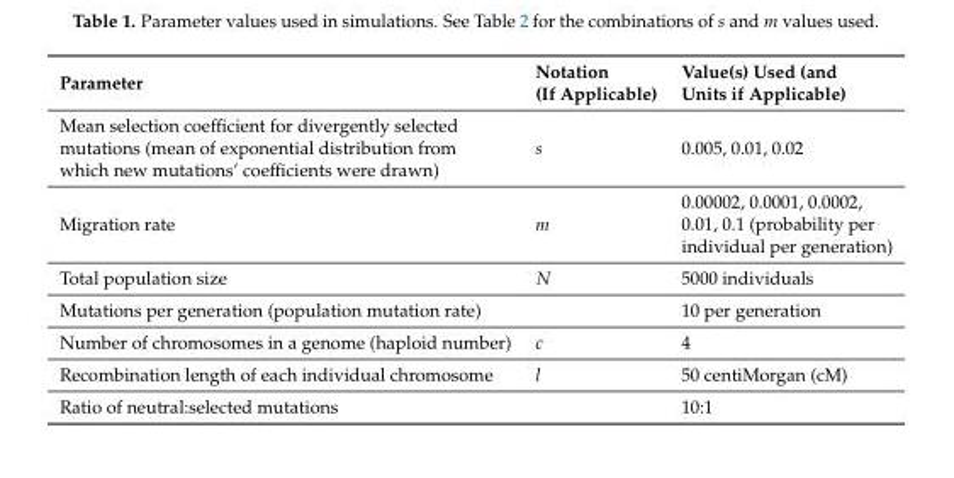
<table><thead><tr><td>Parameter</td><td>Notation (If Applicable)</td><td>Value(s) Used (and Units if Applicable)</td></tr></thead><tbody><tr><td>Mean selection coefficient for divergently selected mutations (mean of exponential distribution from which new mutations’ coefficients were drawn)</td><td>s</td><td>0.005, 0.01, 0.02</td></tr><tr><td>Migration rate</td><td>m</td><td>0.00002, 0.0001, 0.0002, 0.01, 0.1 (probability per individual per generation)</td></tr><tr><td>Total population size</td><td>N</td><td>5000 individuals</td></tr><tr><td>Mutations per generation (population mutation rate)</td><td></td><td>10 per generation</td></tr><tr><td>Number of chromosomes in a genome (haploid number)</td><td>c</td><td>4</td></tr><tr><td>Recombination length of each individual chromosome</td><td>l</td><td>50 centiMorgan (cM)</td></tr><tr><td>Ratio of neutral:selected mutations</td><td></td><td>10:1</td></tr></tbody></table>